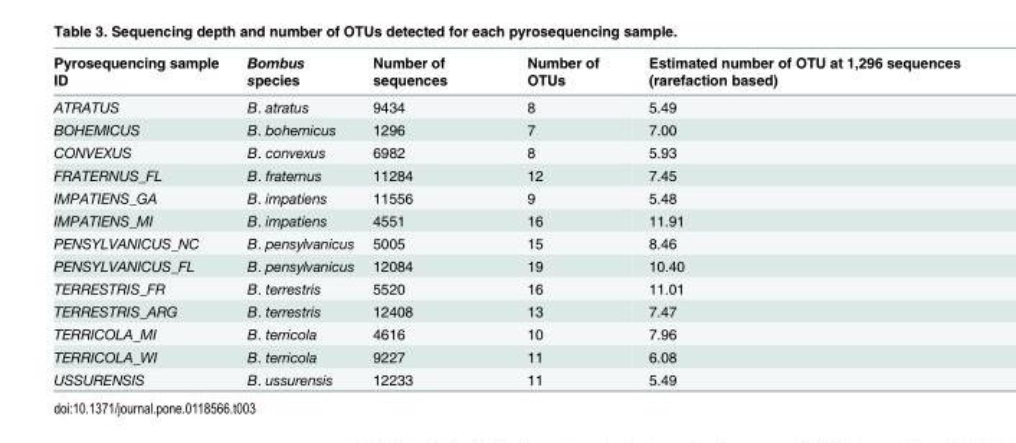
<table><thead><tr><td>Pyrosequencing sample ID</td><td>Bombus species</td><td>Number of sequences</td><td>Number of OTUs</td><td>Estimated number of OTU at 1,296 sequences (rarefaction based)</td></tr></thead><tbody><tr><td>ATRATUS</td><td>B. atratus</td><td>9434</td><td>8</td><td>5.49</td></tr><tr><td>BOHEMICUS</td><td>B. bohemicus</td><td>1296</td><td>7</td><td>7.00</td></tr><tr><td>CONVEXUS</td><td>B. convexus</td><td>6982</td><td>8</td><td>5.93</td></tr><tr><td>FRATERNUS_FL</td><td>B. fraternus</td><td>11284</td><td>12</td><td>7.45</td></tr><tr><td>IMPATIENS_GA</td><td>B. impatiens</td><td>11556</td><td>9</td><td>5.48</td></tr><tr><td>IMPATIENS_MI</td><td>B. impatiens</td><td>4551</td><td>16</td><td>11.91</td></tr><tr><td>PENSYLVANICUS_NC</td><td>B. pensylvanicus</td><td>5005</td><td>15</td><td>8.46</td></tr><tr><td>PENSYLVANICUS_FL</td><td>B. pensylvanicus</td><td>12084</td><td>19</td><td>10.40</td></tr><tr><td>TERRESTRIS_FR</td><td>B. terrestris</td><td>5520</td><td>16</td><td>11.01</td></tr><tr><td>TERRESTRIS_ARG</td><td>B. terrestris</td><td>12408</td><td>13</td><td>7.47</td></tr><tr><td>TERRICOLA_MI</td><td>B. terricola</td><td>4616</td><td>10</td><td>7.96</td></tr><tr><td>TERRICOLA_WI</td><td>B. terricola</td><td>9227</td><td>11</td><td>6.08</td></tr><tr><td>USSURENSIS</td><td>B. ussurensis</td><td>12233</td><td>11</td><td>5.49</td></tr></tbody></table>